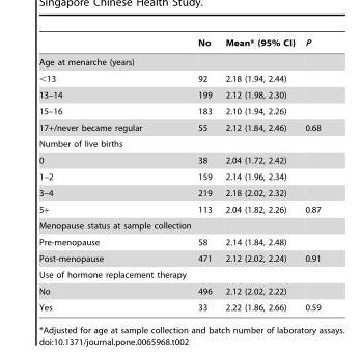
<table><thead><tr><td></td><td>No</td><td>Mean* (95% CI)</td><td>P</td></tr></thead><tbody><tr><td colspan="4">Age at menarche (years)</td></tr><tr><td>&lt;13</td><td>92</td><td>2.18 (1.94, 2.44)</td><td></td></tr><tr><td>13–14</td><td>199</td><td>2.12 (1.98, 2.30)</td><td></td></tr><tr><td>15–16</td><td>183</td><td>2.10 (1.94, 2.26)</td><td></td></tr><tr><td>17+/never became regular</td><td>55</td><td>2.12 (1.84, 2.46)</td><td>0.68</td></tr><tr><td colspan="4">Number of live births</td></tr><tr><td>0</td><td>38</td><td>2.04 (1.72, 2.42)</td><td></td></tr><tr><td>1–2</td><td>159</td><td>2.14 (1.96, 2.34)</td><td></td></tr><tr><td>3–4</td><td>219</td><td>2.18 (2.02, 2.32)</td><td></td></tr><tr><td>5+</td><td>113</td><td>2.04 (1.82, 2.26)</td><td>0.87</td></tr><tr><td colspan="4">Menopause status at sample collection</td></tr><tr><td>Pre-menopause</td><td>58</td><td>2.14 (1.84, 2.48)</td><td></td></tr><tr><td>Post-menopause</td><td>471</td><td>2.12 (2.02, 2.24)</td><td>0.91</td></tr><tr><td colspan="4">Use of hormone replacement therapy</td></tr><tr><td>No</td><td>496</td><td>2.12 (2.02, 2.22)</td><td></td></tr><tr><td>Yes</td><td>33</td><td>2.22 (1.86, 2.66)</td><td>0.59</td></tr></tbody></table>